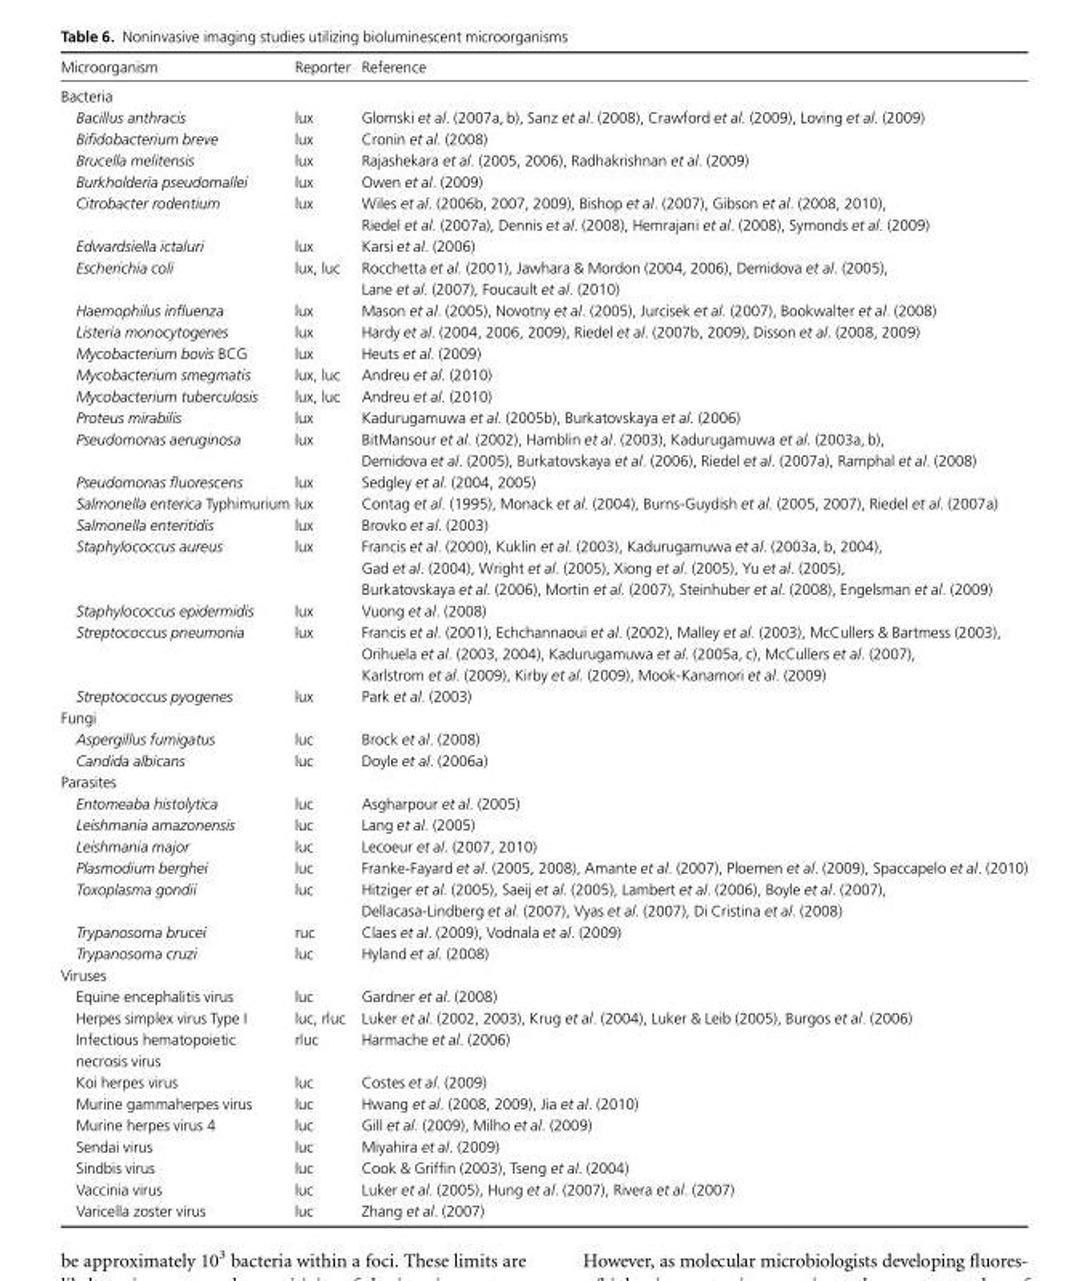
<table><thead><tr><td>Microorganism</td><td>Reporter</td><td>Reference</td></tr></thead><tbody><tr><td colspan="3">Bacteria</td></tr><tr><td>Bacillus anthracis</td><td>lux</td><td>Glomski et al. (2007a, b), Sanz et al. (2008), Crawford et al. (2009), Loving et al. (2009)</td></tr><tr><td>Bifidobacterium breve</td><td>lux</td><td>Cronin et al. (2008)</td></tr><tr><td>Brucella melitensis</td><td>lux</td><td>Rajashekara et al. (2005, 2006), Radhakrishnan et al. (2009)</td></tr><tr><td>Burkholderia pseudomallei</td><td>lux</td><td>Owen et al. (2009)</td></tr><tr><td>Citrobacter rodentium</td><td>lux</td><td>Wiles et al. (2006b, 2007, 2009), Bishop et al. (2007), Gibson et al. (2008, 2010), Riedel et al. (2007a), Dennis et al. (2008), Hemrajani et al. (2008), Symonds et al. (2009)</td></tr><tr><td>Edwardsiella ictaluri</td><td>lux</td><td>Karsi et al. (2006)</td></tr><tr><td>Escherichia coli</td><td>lux, luc</td><td>Rocchetta et al. (2001), Jawhara &amp; Mordon (2004, 2006), Demidova et al. (2005), Lane et al. (2007), Foucault et al. (2010)</td></tr><tr><td>Haemophilus influenza</td><td>lux</td><td>Mason et al. (2005), Novotny et al. (2005), Jurcisek et al. (2007), Bookwalter et al. (2008)</td></tr><tr><td>Listeria monocytogenes</td><td>lux</td><td>Hardy et al. (2004, 2006, 2009), Riedel et al. (2007b, 2009), Disson et al. (2008, 2009)</td></tr><tr><td>Mycobacterium bovis BCG</td><td>lux</td><td>Heuts et al. (2009)</td></tr><tr><td>Mycobacterium smegmatis</td><td>lux, luc</td><td>Andreu et al. (2010)</td></tr><tr><td>Mycobacterium tuberculosis</td><td>lux, luc</td><td>Andreu et al. (2010)</td></tr><tr><td>Proteus mirabilis</td><td>lux</td><td>Kadurugamuwa et al. (2005b), Burkatovskaya et al. (2006)</td></tr><tr><td>Pseudomonas aeruginosa</td><td>lux</td><td>BitMansour et al. (2002), Hamblin et al. (2003), Kadurugamuwa et al. (2003a, b), Demidova et al. (2005), Burkatovskaya et al. (2006), Riedel et al. (2007a), Ramphal et al. (2008)</td></tr><tr><td>Pseudomonas fluorescens</td><td>lux</td><td>Sedgley et al. (2004, 2005)</td></tr><tr><td>Salmonella enterica Typhimurium</td><td>lux</td><td>Contag et al. (1995), Monack et al. (2004), Burns-Guydish et al. (2005, 2007), Riedel et al. (2007a)</td></tr><tr><td>Salmonella enteritidis</td><td>lux</td><td>Brovko et al. (2003)</td></tr><tr><td>Staphylococcus aureus</td><td>lux</td><td>Francis et al. (2000), Kuklin et al. (2003), Kadurugamuwa et al. (2003a, b, 2004), Gad et al. (2004), Wright et al. (2005), Xiong et al. (2005), Yu et al. (2005), Burkatovskaya et al. (2006), Mortin et al. (2007), Steinhuber et al. (2008), Engelsman et al. (2009)</td></tr><tr><td>Staphylococcus epidermidis</td><td>lux</td><td>Vuong et al. (2008)</td></tr><tr><td>Streptococcus pneumonia</td><td>lux</td><td>Francis et al. (2001), Echchannaoui et al. (2002), Malley et al. (2003), McCullers &amp; Bartmess (2003), Orihuela et al. (2003, 2004), Kadurugamuwa et al. (2005a, c), McCullers et al. (2007), Karlstrom et al. (2009), Kirby et al. (2009), Mook-Kanamori et al. (2009)</td></tr><tr><td>Streptococcus pyogenes</td><td>lux</td><td>Park et al. (2003)</td></tr><tr><td colspan="3">Fungi</td></tr><tr><td>Aspergillus fumigatus</td><td>luc</td><td>Brock et al. (2008)</td></tr><tr><td>Candida albicans</td><td>luc</td><td>Doyle et al. (2006a)</td></tr><tr><td colspan="3">Parasites</td></tr><tr><td>Entomeaba histolytica</td><td>luc</td><td>Asgharpour et al. (2005)</td></tr><tr><td>Leishmania amazonensis</td><td>luc</td><td>Lang et al. (2005)</td></tr><tr><td>Leishmania major</td><td>luc</td><td>Lecoeur et al. (2007, 2010)</td></tr><tr><td>Plasmodium berghei</td><td>luc</td><td>Franke-Fayard et al. (2005, 2008), Amante et al. (2007), Ploemen et al. (2009), Spaccapelo et al. (2010)</td></tr><tr><td>Toxoplasma gondii</td><td>luc</td><td>Hitziger et al. (2005), Saeij et al. (2005), Lambert et al. (2006), Boyle et al. (2007), Dellacasa-Lindberg et al. (2007), Vyas et al. (2007), Di Cristina et al. (2008)</td></tr><tr><td>Trypanosoma brucei</td><td>ruc</td><td>Claes et al. (2009), Vodnala et al. (2009)</td></tr><tr><td>Trypanosoma cruzi</td><td>luc</td><td>Hyland et al. (2008)</td></tr><tr><td colspan="3">Viruses</td></tr><tr><td>Equine encephalitis virus</td><td>luc</td><td>Gardner et al. (2008)</td></tr><tr><td>Herpes simplex virus Type I</td><td>luc, rluc</td><td>Luker et al. (2002, 2003), Krug et al. (2004), Luker &amp; Leib (2005), Burgos et al. (2006)</td></tr><tr><td>Infectious hematopoietic necrosis virus</td><td>rluc</td><td>Harmache et al. (2006)</td></tr><tr><td>Koi herpes virus</td><td>luc</td><td>Costes et al. (2009)</td></tr><tr><td>Murine gammaherpes virus</td><td>luc</td><td>Hwang et al. (2008, 2009), Jia et al. (2010)</td></tr><tr><td>Murine herpes virus 4</td><td>luc</td><td>Gill et al. (2009), Milho et al. (2009)</td></tr><tr><td>Sendai virus</td><td>luc</td><td>Miyahira et al. (2009)</td></tr><tr><td>Sindbis virus</td><td>luc</td><td>Cook &amp; Griffin (2003), Tseng et al. (2004)</td></tr><tr><td>Vaccinia virus</td><td>luc</td><td>Luker et al. (2005), Hung et al. (2007), Rivera et al. (2007)</td></tr><tr><td>Varicella zoster virus</td><td>luc</td><td>Zhang et al. (2007)</td></tr></tbody></table>